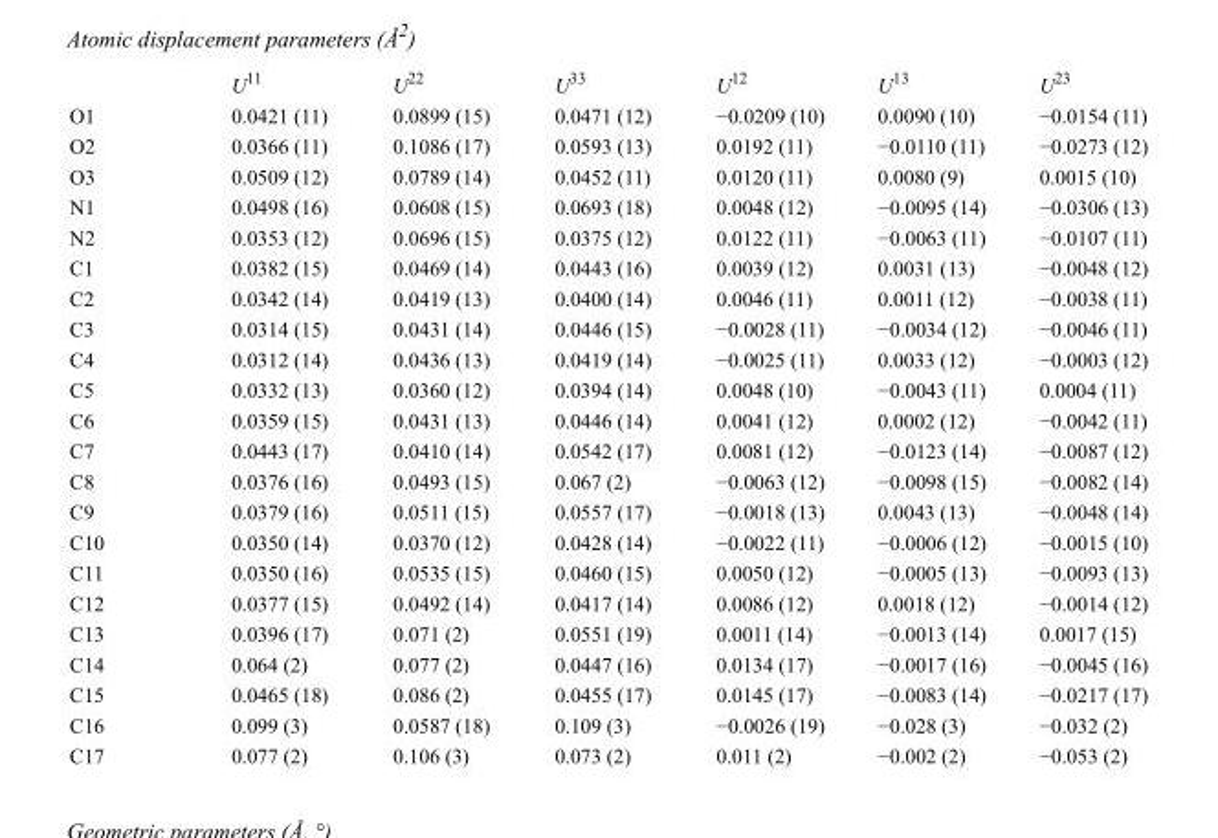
<table><thead><tr><td></td><td>U<sup>11</sup></td><td>U<sup>22</sup></td><td>U<sup>33</sup></td><td>U<sup>12</sup></td><td>U<sup>13</sup></td><td>U<sup>23</sup></td></tr></thead><tbody><tr><td>O1</td><td>0.0421 (11)</td><td>0.0899 (15)</td><td>0.0471 (12)</td><td>−0.0209 (10)</td><td>0.0090 (10)</td><td>−0.0154 (11)</td></tr><tr><td>O2</td><td>0.0366 (11)</td><td>0.1086 (17)</td><td>0.0593 (13)</td><td>0.0192 (11)</td><td>−0.0110 (11)</td><td>−0.0273 (12)</td></tr><tr><td>O3</td><td>0.0509 (12)</td><td>0.0789 (14)</td><td>0.0452 (11)</td><td>0.0120 (11)</td><td>0.0080 (9)</td><td>0.0015 (10)</td></tr><tr><td>N1</td><td>0.0498 (16)</td><td>0.0608 (15)</td><td>0.0693 (18)</td><td>0.0048 (12)</td><td>−0.0095 (14)</td><td>−0.0306 (13)</td></tr><tr><td>N2</td><td>0.0353 (12)</td><td>0.0696 (15)</td><td>0.0375 (12)</td><td>0.0122 (11)</td><td>−0.0063 (11)</td><td>−0.0107 (11)</td></tr><tr><td>C1</td><td>0.0382 (15)</td><td>0.0469 (14)</td><td>0.0443 (16)</td><td>0.0039 (12)</td><td>0.0031 (13)</td><td>−0.0048 (12)</td></tr><tr><td>C2</td><td>0.0342 (14)</td><td>0.0419 (13)</td><td>0.0400 (14)</td><td>0.0046 (11)</td><td>0.0011 (12)</td><td>−0.0038 (11)</td></tr><tr><td>C3</td><td>0.0314 (15)</td><td>0.0431 (14)</td><td>0.0446 (15)</td><td>−0.0028 (11)</td><td>−0.0034 (12)</td><td>−0.0046 (11)</td></tr><tr><td>C4</td><td>0.0312 (14)</td><td>0.0436 (13)</td><td>0.0419 (14)</td><td>−0.0025 (11)</td><td>0.0033 (12)</td><td>−0.0003 (12)</td></tr><tr><td>C5</td><td>0.0332 (13)</td><td>0.0360 (12)</td><td>0.0394 (14)</td><td>0.0048 (10)</td><td>−0.0043 (11)</td><td>0.0004 (11)</td></tr><tr><td>C6</td><td>0.0359 (15)</td><td>0.0431 (13)</td><td>0.0446 (14)</td><td>0.0041 (12)</td><td>0.0002 (12)</td><td>−0.0042 (11)</td></tr><tr><td>C7</td><td>0.0443 (17)</td><td>0.0410 (14)</td><td>0.0542 (17)</td><td>0.0081 (12)</td><td>−0.0123 (14)</td><td>−0.0087 (12)</td></tr><tr><td>C8</td><td>0.0376 (16)</td><td>0.0493 (15)</td><td>0.067 (2)</td><td>−0.0063 (12)</td><td>−0.0098 (15)</td><td>−0.0082 (14)</td></tr><tr><td>C9</td><td>0.0379 (16)</td><td>0.0511 (15)</td><td>0.0557 (17)</td><td>−0.0018 (13)</td><td>0.0043 (13)</td><td>−0.0048 (14)</td></tr><tr><td>C10</td><td>0.0350 (14)</td><td>0.0370 (12)</td><td>0.0428 (14)</td><td>−0.0022 (11)</td><td>−0.0006 (12)</td><td>−0.0015 (10)</td></tr><tr><td>C11</td><td>0.0350 (16)</td><td>0.0535 (15)</td><td>0.0460 (15)</td><td>0.0050 (12)</td><td>−0.0005 (13)</td><td>−0.0093 (13)</td></tr><tr><td>C12</td><td>0.0377 (15)</td><td>0.0492 (14)</td><td>0.0417 (14)</td><td>0.0086 (12)</td><td>0.0018 (12)</td><td>−0.0014 (12)</td></tr><tr><td>C13</td><td>0.0396 (17)</td><td>0.071 (2)</td><td>0.0551 (19)</td><td>0.0011 (14)</td><td>−0.0013 (14)</td><td>0.0017 (15)</td></tr><tr><td>C14</td><td>0.064 (2)</td><td>0.077 (2)</td><td>0.0447 (16)</td><td>0.0134 (17)</td><td>−0.0017 (16)</td><td>−0.0045 (16)</td></tr><tr><td>C15</td><td>0.0465 (18)</td><td>0.086 (2)</td><td>0.0455 (17)</td><td>0.0145 (17)</td><td>−0.0083 (14)</td><td>−0.0217 (17)</td></tr><tr><td>C16</td><td>0.099 (3)</td><td>0.0587 (18)</td><td>0.109 (3)</td><td>−0.0026 (19)</td><td>−0.028 (3)</td><td>−0.032 (2)</td></tr><tr><td>C17</td><td>0.077 (2)</td><td>0.106 (3)</td><td>0.073 (2)</td><td>0.011 (2)</td><td>−0.002 (2)</td><td>−0.053 (2)</td></tr></tbody></table>